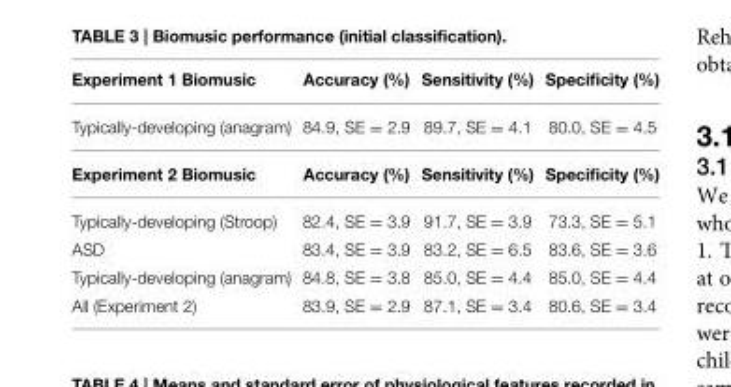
<table><thead><tr><td>Experiment 1 Biomusic</td><td>Accuracy (%)</td><td>Sensitivity (%)</td><td>Specificity (%)</td></tr></thead><tbody><tr><td>Typically-developing (anagram)</td><td>84.9, SE = 2.9</td><td>89.7, SE = 4.1</td><td>80.0, SE = 4.5</td></tr><tr><td>Experiment 2 Biomusic</td><td>Accuracy (%)</td><td>Sensitivity (%)</td><td>Specificity (%)</td></tr><tr><td>Typically-developing (Stroop)</td><td>82.4, SE = 3.9</td><td>91.7, SE = 3.9</td><td>73.3, SE = 5.1</td></tr><tr><td>ASD</td><td>83.4, SE = 3.9</td><td>83.2, SE = 6.5</td><td>83.6, SE = 3.6</td></tr><tr><td>Typically-developing (anagram)</td><td>84.8, SE = 3.8</td><td>85.0, SE = 4.4</td><td>85.0, SE = 4.4</td></tr><tr><td>All (Experiment 2)</td><td>83.9, SE = 2.9</td><td>87.1, SE = 3.4</td><td>80.6, SE = 3.4</td></tr></tbody></table>